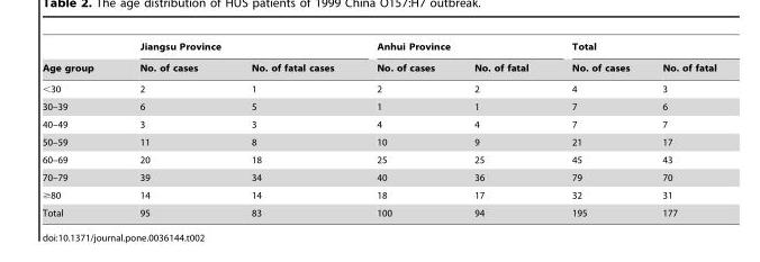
<table><thead><tr><td rowspan="2">Age group</td><td colspan="2">Jiangsu Province</td><td colspan="2">Anhui Province</td><td colspan="2">Total</td></tr><tr><td>No. of cases</td><td>No. of fatal cases</td><td>No. of cases</td><td>No. of fatal</td><td>No. of cases</td><td>No. of fatal</td></tr></thead><tbody><tr><td>&lt;30</td><td>2</td><td>1</td><td>2</td><td>2</td><td>4</td><td>3</td></tr><tr><td>30–39</td><td>6</td><td>5</td><td>1</td><td>1</td><td>7</td><td>6</td></tr><tr><td>40–49</td><td>3</td><td>3</td><td>4</td><td>4</td><td>7</td><td>7</td></tr><tr><td>50–59</td><td>11</td><td>8</td><td>10</td><td>9</td><td>21</td><td>17</td></tr><tr><td>60–69</td><td>20</td><td>18</td><td>25</td><td>25</td><td>45</td><td>43</td></tr><tr><td>70–79</td><td>39</td><td>34</td><td>40</td><td>36</td><td>79</td><td>70</td></tr><tr><td>≥80</td><td>14</td><td>14</td><td>18</td><td>17</td><td>32</td><td>31</td></tr><tr><td>Total</td><td>95</td><td>83</td><td>100</td><td>94</td><td>195</td><td>177</td></tr></tbody></table>